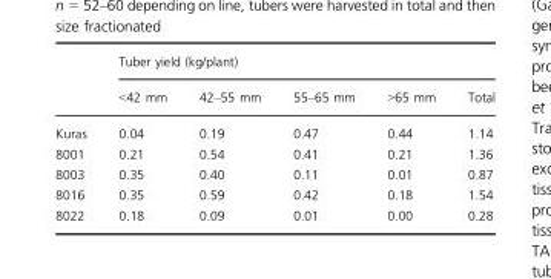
<table><thead><tr><td rowspan="2"></td><td colspan="5">Tuber yield (kg/plant)</td></tr><tr><td>&lt;42 mm</td><td>42–55 mm</td><td>55–65 mm</td><td>&gt;65 mm</td><td>Total</td></tr></thead><tbody><tr><td>Kuras</td><td>0.04</td><td>0.19</td><td>0.47</td><td>0.44</td><td>1.14</td></tr><tr><td>8001</td><td>0.21</td><td>0.54</td><td>0.41</td><td>0.21</td><td>1.36</td></tr><tr><td>8003</td><td>0.35</td><td>0.40</td><td>0.11</td><td>0.01</td><td>0.87</td></tr><tr><td>8016</td><td>0.35</td><td>0.59</td><td>0.42</td><td>0.18</td><td>1.54</td></tr><tr><td>8022</td><td>0.18</td><td>0.09</td><td>0.01</td><td>0.00</td><td>0.28</td></tr></tbody></table>